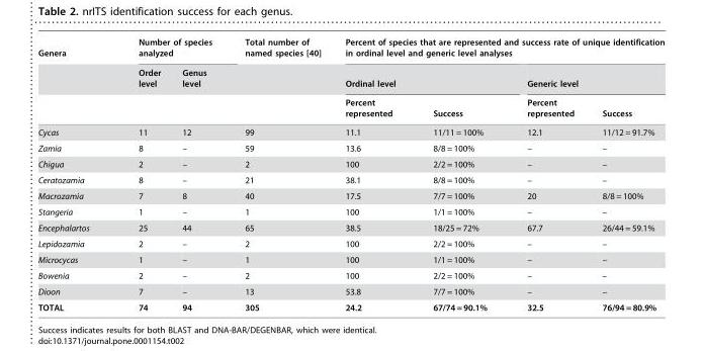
<table><thead><tr><td rowspan="3">Genera</td><td colspan="2">Number of species analyzed</td><td rowspan="3">Total number of named species [40]</td><td colspan="4">Percent of species that are represented and success rate of unique identification in ordinal level and generic level analyses</td></tr><tr><td rowspan="2">Order level</td><td rowspan="2">Genus level</td><td colspan="2">Ordinal level</td><td colspan="2">Generic level</td></tr><tr><td>Percent represented</td><td>Success</td><td>Percent represented</td><td>Success</td></tr></thead><tbody><tr><td>Cycas</td><td>11</td><td>12</td><td>99</td><td>11.1</td><td>11/11 = 100%</td><td>12.1</td><td>11/12 = 91.7%</td></tr><tr><td>Zamia</td><td>8</td><td>–</td><td>59</td><td>13.6</td><td>8/8 = 100%</td><td>–</td><td>–</td></tr><tr><td>Chigua</td><td>2</td><td>–</td><td>2</td><td>100</td><td>2/2 = 100%</td><td>–</td><td>–</td></tr><tr><td>Ceratozamia</td><td>8</td><td>–</td><td>21</td><td>38.1</td><td>8/8 = 100%</td><td>–</td><td>–</td></tr><tr><td>Macrozamia</td><td>7</td><td>8</td><td>40</td><td>17.5</td><td>7/7 = 100%</td><td>20</td><td>8/8 = 100%</td></tr><tr><td>Stangeria</td><td>1</td><td>–</td><td>1</td><td>100</td><td>1/1 = 100%</td><td>–</td><td>–</td></tr><tr><td>Encephalartos</td><td>25</td><td>44</td><td>65</td><td>38.5</td><td>18/25 = 72%</td><td>67.7</td><td>26/44 = 59.1%</td></tr><tr><td>Lepidozamia</td><td>2</td><td>–</td><td>2</td><td>100</td><td>2/2 = 100%</td><td>–</td><td>–</td></tr><tr><td>Microcycas</td><td>1</td><td>–</td><td>1</td><td>100</td><td>1/1 = 100%</td><td>–</td><td>–</td></tr><tr><td>Bowenia</td><td>2</td><td>–</td><td>2</td><td>100</td><td>2/2 = 100%</td><td>–</td><td>–</td></tr><tr><td>Dioon</td><td>7</td><td>–</td><td>13</td><td>53.8</td><td>7/7 = 100%</td><td>–</td><td>–</td></tr><tr><td>TOTAL</td><td>74</td><td>94</td><td>305</td><td>24.2</td><td>67/74 = 90.1%</td><td>32.5</td><td>76/94 = 80.9%</td></tr></tbody></table>